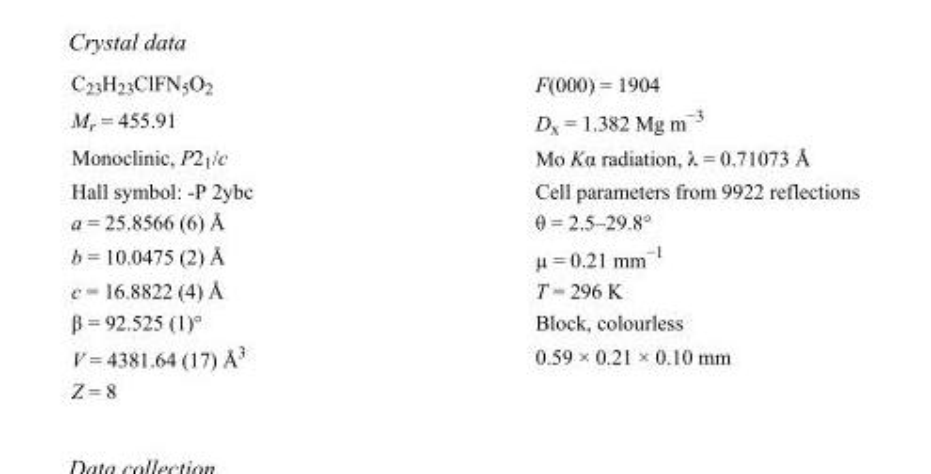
<table><tbody><tr><td>C<sub>23</sub>H<sub>23</sub>ClFN<sub>5</sub>O<sub>2</sub></td><td>F(000) = 1904</td></tr><tr><td>M<sub>r</sub> = 455.91</td><td>D<sub>x</sub> = 1.382 Mg m<sup>−3</sup></td></tr><tr><td>Monoclinic, P2<sub>1</sub>/c</td><td>Mo Kα radiation, λ = 0.71073 Å</td></tr><tr><td>Hall symbol: -P 2ybc</td><td>Cell parameters from 9922 reflections</td></tr><tr><td>a = 25.8566 (6) Å</td><td>θ = 2.5–29.8°</td></tr><tr><td>b = 10.0475 (2) Å</td><td>µ = 0.21 mm<sup>−1</sup></td></tr><tr><td>c = 16.8822 (4) Å</td><td>T = 296 K</td></tr><tr><td>β = 92.525 (1)°</td><td>Block, colourless</td></tr><tr><td>V = 4381.64 (17) Å<sup>3</sup></td><td>0.59 × 0.21 × 0.10 mm</td></tr><tr><td>Z = 8</td><td></td></tr></tbody></table>